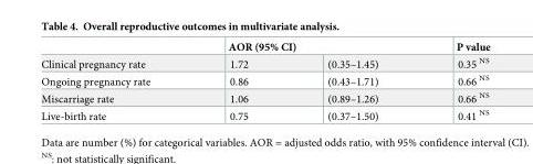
<table><thead><tr><td rowspan="2">Clinical pregnancy rate</td><td colspan="2">AOR (95% CI)</td><td rowspan="2">P value 0.35 <sup>NS</sup></td></tr><tr><td>1.72</td><td>(0.35–1.45)</td></tr></thead><tbody><tr><td>Ongoing pregnancy rate</td><td>0.86</td><td>(0.43–1.71)</td><td>0.66 <sup>NS</sup></td></tr><tr><td>Miscarriage rate</td><td>1.06</td><td>(0.89–1.26)</td><td>0.66 <sup>NS</sup></td></tr><tr><td>Live-birth rate</td><td>0.75</td><td>(0.37–1.50)</td><td>0.41 <sup>NS</sup></td></tr></tbody></table>